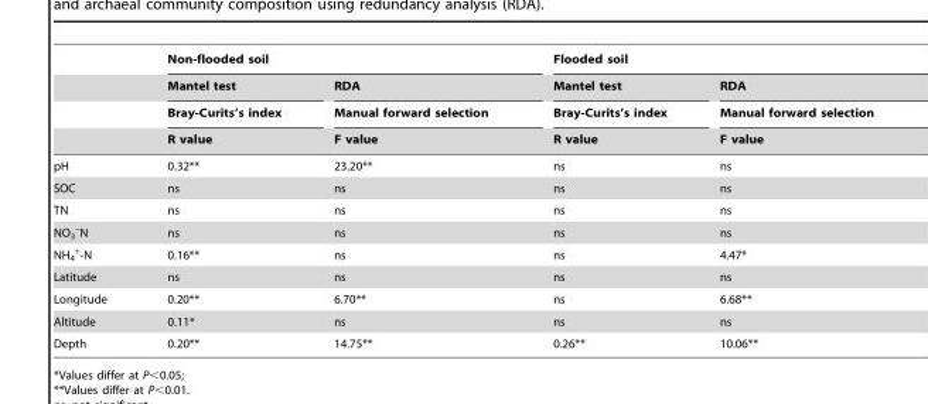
<table><thead><tr><td rowspan="4"></td><td colspan="2">Non-flooded soil</td><td colspan="2">Flooded soil</td></tr><tr><td rowspan="3">Mantel test Bray-Curits’s index R value</td><td rowspan="3">RDA Manual forward selection F value</td><td rowspan="3">Mantel test Bray-Curits’s index R value</td><td rowspan="3">RDA Manual forward selection F value</td></tr><tr></tr><tr></tr></thead><tbody><tr><td>pH</td><td>0.32**</td><td>23.20**</td><td>ns</td><td>ns</td></tr><tr><td>SOC</td><td>ns</td><td>ns</td><td>ns</td><td>ns</td></tr><tr><td>TN</td><td>ns</td><td>ns</td><td>ns</td><td>ns</td></tr><tr><td>NO<sub>3</sub> <sup>–</sup>N</td><td>ns</td><td>ns</td><td>ns</td><td>ns</td></tr><tr><td>NH<sub>4</sub> <sup>+</sup>-N</td><td>0.16**</td><td>ns</td><td>ns</td><td>4.47*</td></tr><tr><td>Latitude</td><td>ns</td><td>ns</td><td>ns</td><td>ns</td></tr><tr><td>Longitude</td><td>0.20**</td><td>6.70**</td><td>ns</td><td>6.68**</td></tr><tr><td>Altitude</td><td>0.11*</td><td>ns</td><td>ns</td><td>ns</td></tr><tr><td>Depth</td><td>0.20**</td><td>14.75**</td><td>0.26**</td><td>10.06**</td></tr></tbody></table>